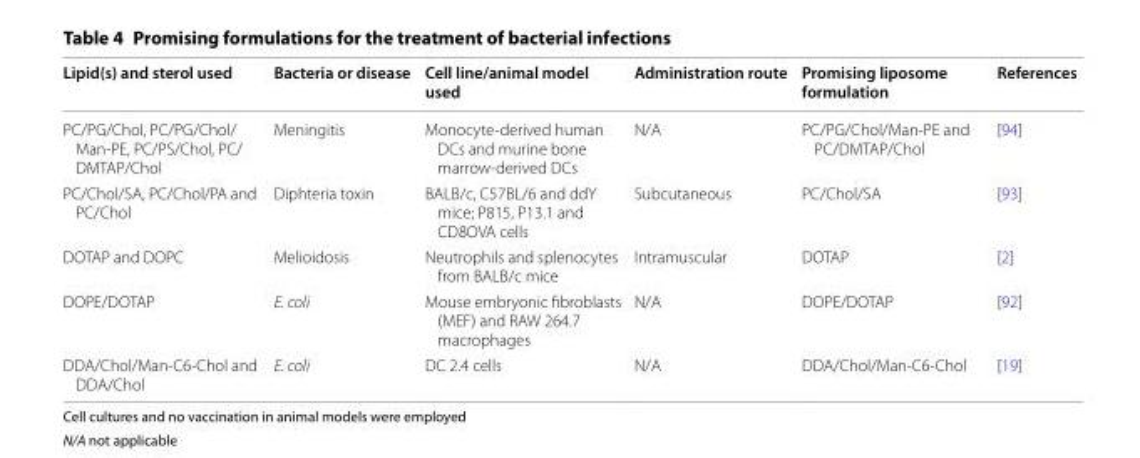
<table><thead><tr><td>Lipid(s) and sterol used</td><td>Bacteria or disease</td><td>Cell line/animal model used</td><td>Administration route</td><td>Promising liposome formulation</td><td>References</td></tr></thead><tbody><tr><td>PC/PG/Chol, PC/PG/Chol/ Man-PE, PC/PS/Chol, PC/ DMTAP/Chol</td><td>Meningitis</td><td>Monocyte-derived human DCs and murine bone marrow-derived DCs</td><td>N/A</td><td>PC/PG/Chol/Man-PE and PC/DMTAP/Chol</td><td>[94]</td></tr><tr><td>PC/Chol/SA, PC/Chol/PA and PC/Chol</td><td>Diphteria toxin</td><td>BALB/c, C57BL/6 and ddY mice; P815, P13.1 and CD8OVA cells</td><td>Subcutaneous</td><td>PC/Chol/SA</td><td>[93]</td></tr><tr><td>DOTAP and DOPC</td><td>Melioidosis</td><td>Neutrophils and splenocytes from BALB/c mice</td><td>Intramuscular</td><td>DOTAP</td><td>[2]</td></tr><tr><td>DOPE/DOTAP</td><td>E. coli</td><td>Mouse embryonic fibroblasts (MEF) and RAW 264.7 macrophages</td><td>N/A</td><td>DOPE/DOTAP</td><td>[92]</td></tr><tr><td>DDA/Chol/Man-C6-Chol and DDA/Chol</td><td>E. coli</td><td>DC 2.4 cells</td><td>N/A</td><td>DDA/Chol/Man-C6-Chol</td><td>[19]</td></tr></tbody></table>